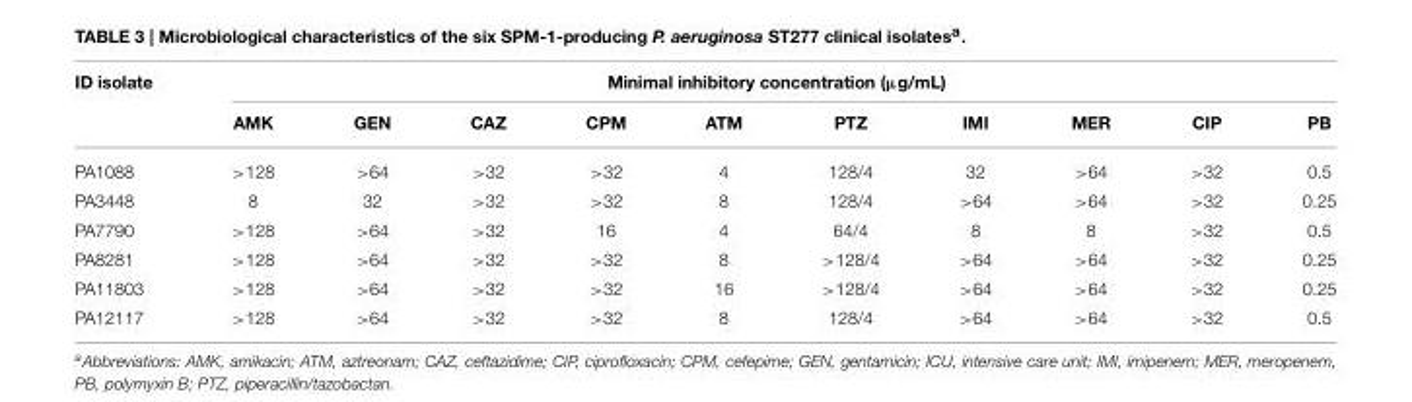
<table><thead><tr><td rowspan="2">ID isolate</td><td colspan="10">Minimal inhibitory concentration (µg/mL)</td></tr><tr><td>AMK</td><td>GEN</td><td>CAZ</td><td>CPM</td><td>ATM</td><td>PTZ</td><td>IMI</td><td>MER</td><td>CIP</td><td>PB</td></tr></thead><tbody><tr><td>PA1088</td><td>&gt;128</td><td>&gt;64</td><td>&gt;32</td><td>&gt;32</td><td>4</td><td>128/4</td><td>32</td><td>&gt;64</td><td>&gt;32</td><td>0.5</td></tr><tr><td>PA3448</td><td>8</td><td>32</td><td>&gt;32</td><td>&gt;32</td><td>8</td><td>128/4</td><td>&gt;64</td><td>&gt;64</td><td>&gt;32</td><td>0.25</td></tr><tr><td>PA7790</td><td>&gt;128</td><td>&gt;64</td><td>&gt;32</td><td>16</td><td>4</td><td>64/4</td><td>8</td><td>8</td><td>&gt;32</td><td>0.5</td></tr><tr><td>PA8281</td><td>&gt;128</td><td>&gt;64</td><td>&gt;32</td><td>&gt;32</td><td>8</td><td>&gt;128/4</td><td>&gt;64</td><td>&gt;64</td><td>&gt;32</td><td>0.25</td></tr><tr><td>PA11803</td><td>&gt;128</td><td>&gt;64</td><td>&gt;32</td><td>&gt;32</td><td>16</td><td>&gt;128/4</td><td>&gt;64</td><td>&gt;64</td><td>&gt;32</td><td>0.25</td></tr><tr><td>PA12117</td><td>&gt;128</td><td>&gt;64</td><td>&gt;32</td><td>&gt;32</td><td>8</td><td>128/4</td><td>&gt;64</td><td>&gt;64</td><td>&gt;32</td><td>0.5</td></tr></tbody></table>